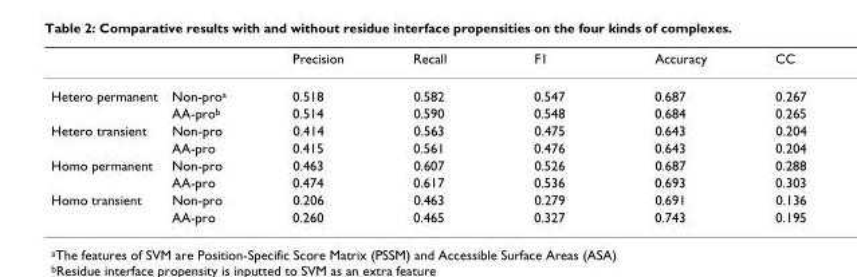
<table><thead><tr><td></td><td></td><td>Precision</td><td>Recall</td><td>F1</td><td>Accuracy</td><td>CC</td></tr></thead><tbody><tr><td rowspan="2">Hetero permanent</td><td>Non-pro<sup>a</sup></td><td>0.518</td><td>0.582</td><td>0.547</td><td>0.687</td><td>0.267</td></tr><tr><td>AA-pro<sup>b</sup></td><td>0.514</td><td>0.590</td><td>0.548</td><td>0.684</td><td>0.265</td></tr><tr><td rowspan="2">Hetero transient</td><td>Non-pro</td><td>0.414</td><td>0.563</td><td>0.475</td><td>0.643</td><td>0.204</td></tr><tr><td>AA-pro</td><td>0.415</td><td>0.561</td><td>0.476</td><td>0.643</td><td>0.204</td></tr><tr><td rowspan="2">Homo permanent</td><td>Non-pro</td><td>0.463</td><td>0.607</td><td>0.526</td><td>0.687</td><td>0.288</td></tr><tr><td>AA-pro</td><td>0.474</td><td>0.617</td><td>0.536</td><td>0.693</td><td>0.303</td></tr><tr><td rowspan="2">Homo transient</td><td>Non-pro</td><td>0.206</td><td>0.463</td><td>0.279</td><td>0.691</td><td>0.136</td></tr><tr><td>AA-pro</td><td>0.260</td><td>0.465</td><td>0.327</td><td>0.743</td><td>0.195</td></tr></tbody></table>